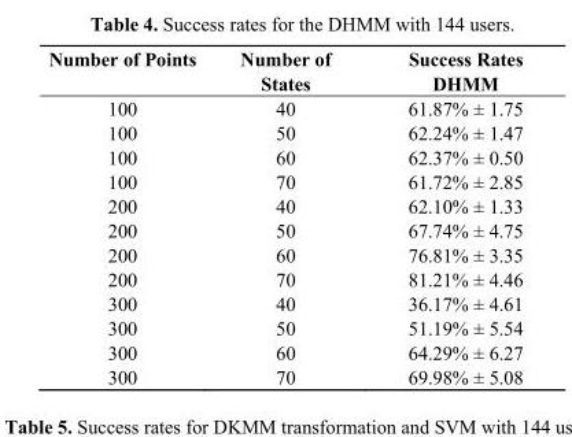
<table><thead><tr><td>Number of Points</td><td>Number of States</td><td>Success Rates DHMM</td></tr></thead><tbody><tr><td>100</td><td>40</td><td>61.87% ± 1.75</td></tr><tr><td>100</td><td>50</td><td>62.24% ± 1.47</td></tr><tr><td>100</td><td>60</td><td>62.37% ± 0.50</td></tr><tr><td>100</td><td>70</td><td>61.72% ± 2.85</td></tr><tr><td>200</td><td>40</td><td>62.10% ± 1.33</td></tr><tr><td>200</td><td>50</td><td>67.74% ± 4.75</td></tr><tr><td>200</td><td>60</td><td>76.81% ± 3.35</td></tr><tr><td>200</td><td>70</td><td>81.21% ± 4.46</td></tr><tr><td>300</td><td>40</td><td>36.17% ± 4.61</td></tr><tr><td>300</td><td>50</td><td>51.19% ± 5.54</td></tr><tr><td>300</td><td>60</td><td>64.29% ± 6.27</td></tr><tr><td>300</td><td>70</td><td>69.98% ± 5.08</td></tr></tbody></table>